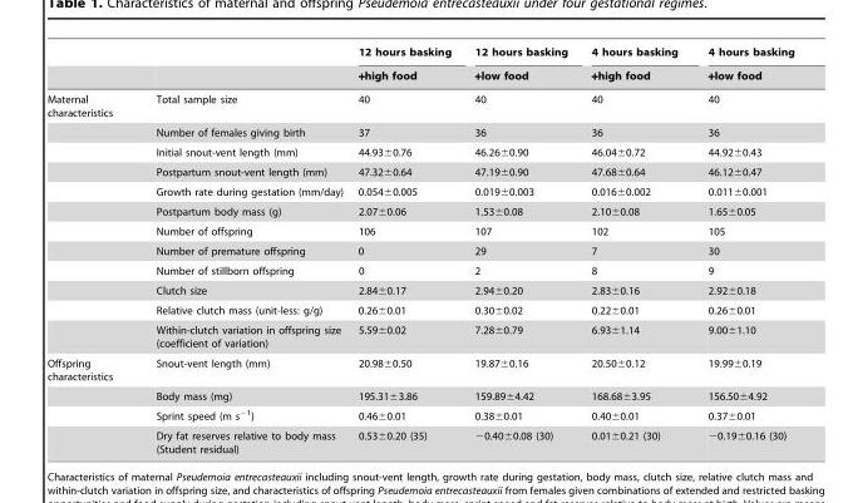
<table><thead><tr><td rowspan="2"></td><td rowspan="2"></td><td rowspan="2">12 hours basking +high food</td><td rowspan="2">12 hours basking +low food</td><td rowspan="2">4 hours basking +high food</td><td rowspan="2">4 hours basking +low food</td></tr><tr></tr></thead><tbody><tr><td rowspan="12">Maternal characteristics</td><td>Total sample size</td><td>40</td><td>40</td><td>40</td><td>40</td></tr><tr><td>Number of females giving birth</td><td>37</td><td>36</td><td>36</td><td>36</td></tr><tr><td>Initial snout-vent length (mm)</td><td>44.93±0.76</td><td>46.26±0.90</td><td>46.04±0.72</td><td>44.92±0.43</td></tr><tr><td>Postpartum snout-vent length (mm)</td><td>47.32±0.64</td><td>47.19±0.90</td><td>47.68±0.64</td><td>46.12±0.47</td></tr><tr><td>Growth rate during gestation (mm/day)</td><td>0.054±0.005</td><td>0.019±0.003</td><td>0.016±0.002</td><td>0.011±0.001</td></tr><tr><td>Postpartum body mass (g)</td><td>2.07±0.06</td><td>1.53±0.08</td><td>2.10±0.08</td><td>1.65±0.05</td></tr><tr><td>Number of offspring</td><td>106</td><td>107</td><td>102</td><td>105</td></tr><tr><td>Number of premature offspring</td><td>0</td><td>29</td><td>7</td><td>30</td></tr><tr><td>Number of stillborn offspring</td><td>0</td><td>2</td><td>8</td><td>9</td></tr><tr><td>Clutch size</td><td>2.84±0.17</td><td>2.94±0.20</td><td>2.83±0.16</td><td>2.92±0.18</td></tr><tr><td>Relative clutch mass (unit-less: g/g)</td><td>0.26±0.01</td><td>0.30±0.02</td><td>0.22±0.01</td><td>0.26±0.01</td></tr><tr><td>Within-clutch variation in offspring size (coefficient of variation)</td><td>5.59±0.02</td><td>7.28±0.79</td><td>6.93±1.14</td><td>9.00±1.10</td></tr><tr><td rowspan="4">Offspring characteristics</td><td>Snout-vent length (mm)</td><td>20.98±0.50</td><td>19.87±0.16</td><td>20.50±0.12</td><td>19.99±0.19</td></tr><tr><td>Body mass (mg)</td><td>195.31±3.86</td><td>159.89±4.42</td><td>168.68±3.95</td><td>156.50±4.92</td></tr><tr><td>Sprint speed (m s<sup>−1</sup>)</td><td>0.46±0.01</td><td>0.38±0.01</td><td>0.40±0.01</td><td>0.37±0.01</td></tr><tr><td>Dry fat reserves relative to body mass (Student residual)</td><td>0.53±0.20 (35)</td><td>−0.40±0.08 (30)</td><td>0.01±0.21 (30)</td><td>−0.19±0.16 (30)</td></tr></tbody></table>